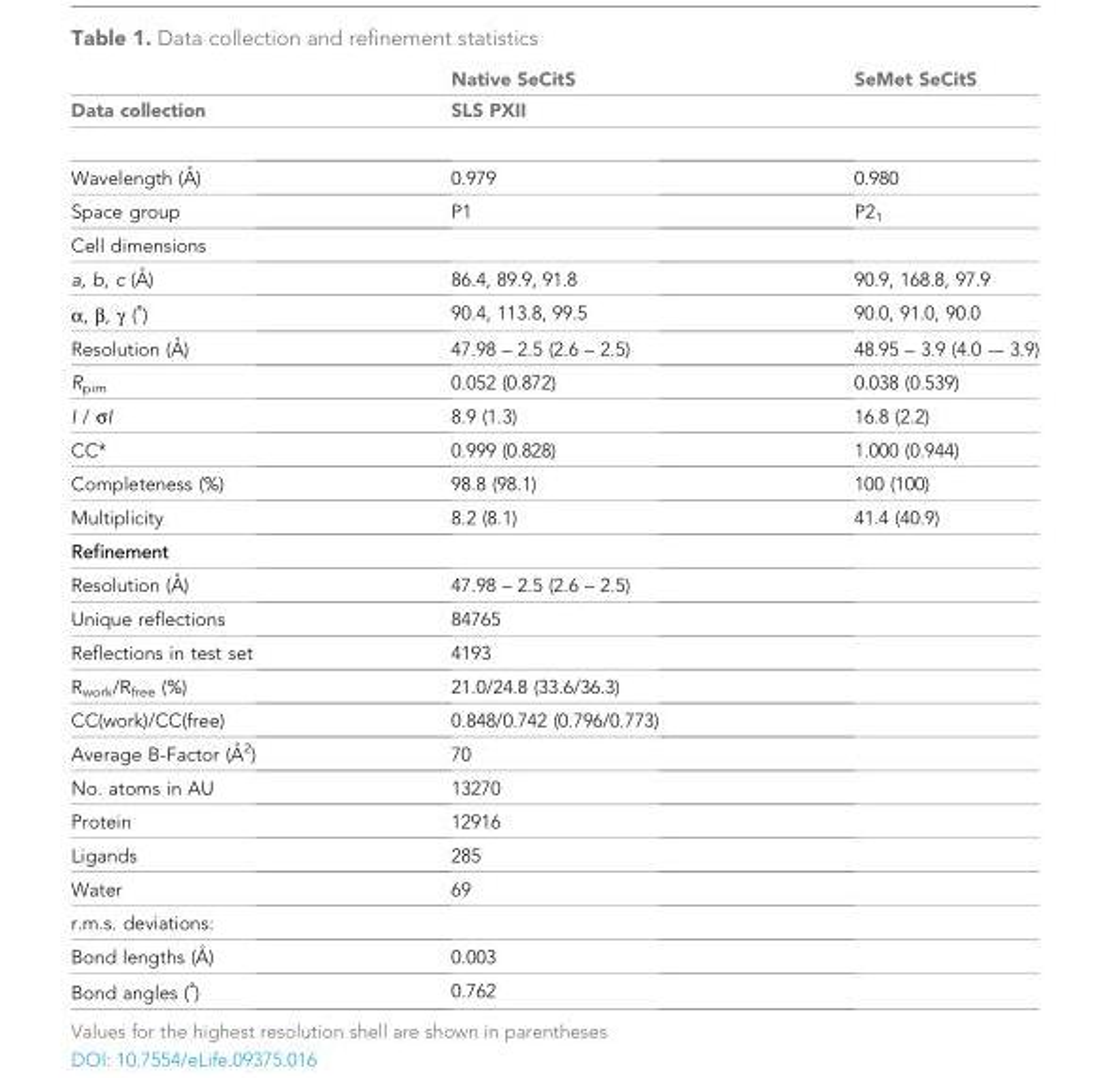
<table><thead><tr><td rowspan="2">Data collection</td><td>Native SeCitS</td><td>SeMet SeCitS</td></tr><tr><td colspan="2">SLS PXII</td></tr></thead><tbody><tr><td>Wavelength (A˚ )</td><td>0.979</td><td>0.980</td></tr><tr><td>Space group</td><td>P1</td><td>P2<sub>1</sub></td></tr><tr><td colspan="3">Cell dimensions</td></tr><tr><td>a, b, c (A˚ )</td><td>86.4, 89.9, 91.8</td><td>90.9, 168.8, 97.9</td></tr><tr><td>α, β, γ (˚)</td><td>90.4, 113.8, 99.5</td><td>90.0, 91.0, 90.0</td></tr><tr><td>Resolution (A˚ )</td><td>47.98 – 2.5 (2.6 – 2.5)</td><td>48.95 – 3.9 (4.0 -– 3.9)</td></tr><tr><td>R<sub>pim</sub></td><td>0.052 (0.872)</td><td>0.038 (0.539)</td></tr><tr><td>I / σI</td><td>8.9 (1.3)</td><td>16.8 (2.2)</td></tr><tr><td>CC*</td><td>0.999 (0.828)</td><td>1.000 (0.944)</td></tr><tr><td>Completeness (%)</td><td>98.8 (98.1)</td><td>100 (100)</td></tr><tr><td>Multiplicity</td><td>8.2 (8.1)</td><td>41.4 (40.9)</td></tr><tr><td colspan="3">Refinement</td></tr><tr><td>Resolution (A˚ )</td><td>47.98 – 2.5 (2.6 – 2.5)</td><td></td></tr><tr><td>Unique reflections</td><td>84765</td><td></td></tr><tr><td>Reflections in test set</td><td>4193</td><td></td></tr><tr><td>R<sub>work</sub>/R<sub>free</sub> (%)</td><td>21.0/24.8 (33.6/36.3)</td><td></td></tr><tr><td>CC(work)/CC(free)</td><td>0.848/0.742 (0.796/0.773)</td><td></td></tr><tr><td>Average B-Factor (A˚ 2)</td><td>70</td><td></td></tr><tr><td>No. atoms in AU</td><td>13270</td><td></td></tr><tr><td>Protein</td><td>12916</td><td></td></tr><tr><td>Ligands</td><td>285</td><td></td></tr><tr><td>Water</td><td>69</td><td></td></tr><tr><td colspan="3">r.m.s. deviations:</td></tr><tr><td>Bond lengths (A˚ )</td><td>0.003</td><td></td></tr><tr><td>Bond angles (˚)</td><td>0.762</td><td></td></tr></tbody></table>